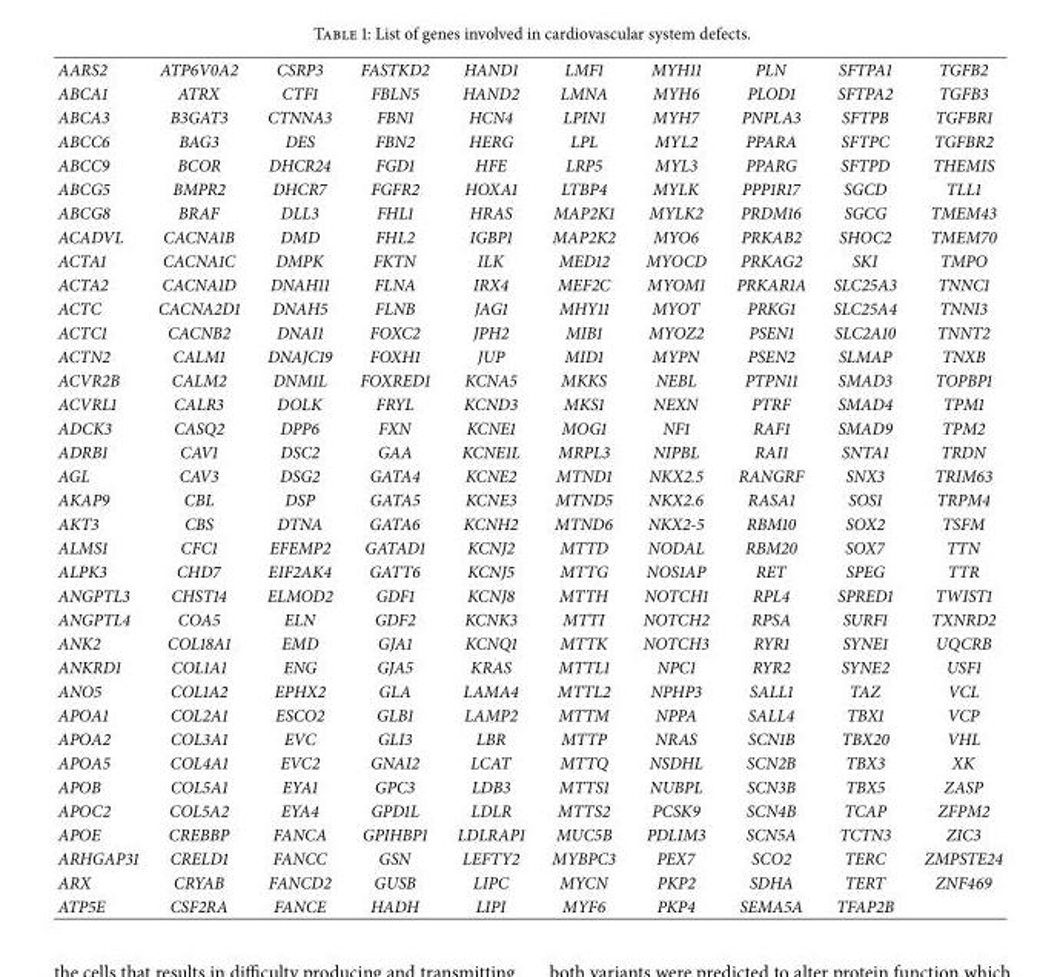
<table><tbody><tr><td>AARS2</td><td>ATP6V0A2</td><td>CSRP3</td><td>FASTKD2</td><td>HAND1</td><td>LMF1</td><td>MYH11</td><td>PLN</td><td>SFTPA1</td><td>TGFB2</td></tr><tr><td>ABCA1</td><td>ATRX</td><td>CTF1</td><td>FBLN5</td><td>HAND2</td><td>LMNA</td><td>MYH6</td><td>PLOD1</td><td>SFTPA2</td><td>TGFB3</td></tr><tr><td>ABCA3</td><td>B3GAT3</td><td>CTNNA3</td><td>FBN1</td><td>HCN4</td><td>LPIN1</td><td>MYH7</td><td>PNPLA3</td><td>SFTPB</td><td>TGFBR1</td></tr><tr><td>ABCC6</td><td>BAG3</td><td>DES</td><td>FBN2</td><td>HERG</td><td>LPL</td><td>MYL2</td><td>PPARA</td><td>SFTPC</td><td>TGFBR2</td></tr><tr><td>ABCC9</td><td>BCOR</td><td>DHCR24</td><td>FGD1</td><td>HFE</td><td>LRP5</td><td>MYL3</td><td>PPARG</td><td>SFTPD</td><td>THEMIS</td></tr><tr><td>ABCG5</td><td>BMPR2</td><td>DHCR7</td><td>FGFR2</td><td>HOXA1</td><td>LTBP4</td><td>MYLK</td><td>PPP1R17</td><td>SGCD</td><td>TLL1</td></tr><tr><td>ABCG8</td><td>BRAF</td><td>DLL3</td><td>FHL1</td><td>HRAS</td><td>MAP2K1</td><td>MYLK2</td><td>PRDM16</td><td>SGCG</td><td>TMEM43</td></tr><tr><td>ACADVL</td><td>CACNA1B</td><td>DMD</td><td>FHL2</td><td>IGBP1</td><td>MAP2K2</td><td>MYO6</td><td>PRKAB2</td><td>SHOC2</td><td>TMEM70</td></tr><tr><td>ACTA1</td><td>CACNA1C</td><td>DMPK</td><td>FKTN</td><td>ILK</td><td>MED12</td><td>MYOCD</td><td>PRKAG2</td><td>SKI</td><td>TMPO</td></tr><tr><td>ACTA2</td><td>CACNA1D</td><td>DNAH11</td><td>FLNA</td><td>IRX4</td><td>MEF2C</td><td>MYOM1</td><td>PRKAR1A</td><td>SLC25A3</td><td>TNNC1</td></tr><tr><td>ACTC</td><td>CACNA2D1</td><td>DNAH5</td><td>FLNB</td><td>JAG1</td><td>MHY11</td><td>MYOT</td><td>PRKG1</td><td>SLC25A4</td><td>TNNI3</td></tr><tr><td>ACTC1</td><td>CACNB2</td><td>DNAI1</td><td>FOXC2</td><td>JPH2</td><td>MIB1</td><td>MYOZ2</td><td>PSEN1</td><td>SLC2A10</td><td>TNNT2</td></tr><tr><td>ACTN2</td><td>CALM1</td><td>DNAJC19</td><td>FOXH1</td><td>JUP</td><td>MID1</td><td>MYPN</td><td>PSEN2</td><td>SLMAP</td><td>TNXB</td></tr><tr><td>ACVR2B</td><td>CALM2</td><td>DNM1L</td><td>FOXRED1</td><td>KCNA5</td><td>MKKS</td><td>NEBL</td><td>PTPN11</td><td>SMAD3</td><td>TOPBP1</td></tr><tr><td>ACVRL1</td><td>CALR3</td><td>DOLK</td><td>FRYL</td><td>KCND3</td><td>MKS1</td><td>NEXN</td><td>PTRF</td><td>SMAD4</td><td>TPM1</td></tr><tr><td>ADCK3</td><td>CASQ2</td><td>DPP6</td><td>FXN</td><td>KCNE1</td><td>MOG1</td><td>NF1</td><td>RAF1</td><td>SMAD9</td><td>TPM2</td></tr><tr><td>ADRB1</td><td>CAV1</td><td>DSC2</td><td>GAA</td><td>KCNE1L</td><td>MRPL3</td><td>NIPBL</td><td>RAI1</td><td>SNTA1</td><td>TRDN</td></tr><tr><td>AGL</td><td>CAV3</td><td>DSG2</td><td>GATA4</td><td>KCNE2</td><td>MTND1</td><td>NKX2.5</td><td>RANGRF</td><td>SNX3</td><td>TRIM63</td></tr><tr><td>AKAP9</td><td>CBL</td><td>DSP</td><td>GATA5</td><td>KCNE3</td><td>MTND5</td><td>NKX2.6</td><td>RASA1</td><td>SOS1</td><td>TRPM4</td></tr><tr><td>AKT3</td><td>CBS</td><td>DTNA</td><td>GATA6</td><td>KCNH2</td><td>MTND6</td><td>NKX2-5</td><td>RBM10</td><td>SOX2</td><td>TSFM</td></tr><tr><td>ALMS1</td><td>CFC1</td><td>EFEMP2</td><td>GATAD1</td><td>KCNJ2</td><td>MTTD</td><td>NODAL</td><td>RBM20</td><td>SOX7</td><td>TTN</td></tr><tr><td>ALPK3</td><td>CHD7</td><td>EIF2AK4</td><td>GATT6</td><td>KCNJ5</td><td>MTTG</td><td>NOS1AP</td><td>RET</td><td>SPEG</td><td>TTR</td></tr><tr><td>ANGPTL3</td><td>CHST14</td><td>ELMOD2</td><td>GDF1</td><td>KCNJ8</td><td>MTTH</td><td>NOTCH1</td><td>RPL4</td><td>SPRED1</td><td>TWIST1</td></tr><tr><td>ANGPTL4</td><td>COA5</td><td>ELN</td><td>GDF2</td><td>KCNK3</td><td>MTTI</td><td>NOTCH2</td><td>RPSA</td><td>SURF1</td><td>TXNRD2</td></tr><tr><td>ANK2</td><td>COL18A1</td><td>EMD</td><td>GJA1</td><td>KCNQ1</td><td>MTTK</td><td>NOTCH3</td><td>RYR1</td><td>SYNE1</td><td>UQCRB</td></tr><tr><td>ANKRD1</td><td>COL1A1</td><td>ENG</td><td>GJA5</td><td>KRAS</td><td>MTTL1</td><td>NPC1</td><td>RYR2</td><td>SYNE2</td><td>USF1</td></tr><tr><td>ANO5</td><td>COL1A2</td><td>EPHX2</td><td>GLA</td><td>LAMA4</td><td>MTTL2</td><td>NPHP3</td><td>SALL1</td><td>TAZ</td><td>VCL</td></tr><tr><td>APOA1</td><td>COL2A1</td><td>ESCO2</td><td>GLB1</td><td>LAMP2</td><td>MTTM</td><td>NPPA</td><td>SALL4</td><td>TBX1</td><td>VCP</td></tr><tr><td>APOA2</td><td>COL3A1</td><td>EVC</td><td>GLI3</td><td>LBR</td><td>MTTP</td><td>NRAS</td><td>SCN1B</td><td>TBX20</td><td>VHL</td></tr><tr><td>APOA5</td><td>COL4A1</td><td>EVC2</td><td>GNAI2</td><td>LCAT</td><td>MTTQ</td><td>NSDHL</td><td>SCN2B</td><td>TBX3</td><td>XK</td></tr><tr><td>APOB</td><td>COL5A1</td><td>EYA1</td><td>GPC3</td><td>LDB3</td><td>MTTS1</td><td>NUBPL</td><td>SCN3B</td><td>TBX5</td><td>ZASP</td></tr><tr><td>APOC2</td><td>COL5A2</td><td>EYA4</td><td>GPD1L</td><td>LDLR</td><td>MTTS2</td><td>PCSK9</td><td>SCN4B</td><td>TCAP</td><td>ZFPM2</td></tr><tr><td>APOE</td><td>CREBBP</td><td>FANCA</td><td>GPIHBP1</td><td>LDLRAP1</td><td>MUC5B</td><td>PDLIM3</td><td>SCN5A</td><td>TCTN3</td><td>ZIC3</td></tr><tr><td>ARHGAP31</td><td>CRELD1</td><td>FANCC</td><td>GSN</td><td>LEFTY2</td><td>MYBPC3</td><td>PEX7</td><td>SCO2</td><td>TERC</td><td>ZMPSTE24</td></tr><tr><td>ARX</td><td>CRYAB</td><td>FANCD2</td><td>GUSB</td><td>LIPC</td><td>MYCN</td><td>PKP2</td><td>SDHA</td><td>TERT</td><td>ZNF469</td></tr><tr><td>ATP5E</td><td>CSF2RA</td><td>FANCE</td><td>HADH</td><td>LIPI</td><td>MYF6</td><td>PKP4</td><td>SEMA5A</td><td>TFAP2B</td><td></td></tr></tbody></table>